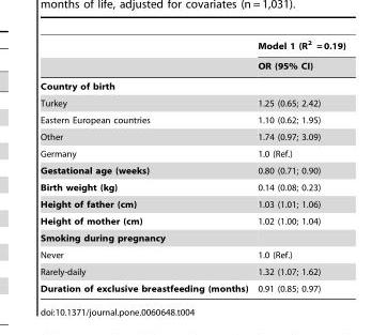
<table><thead><tr><td rowspan="2"></td><td rowspan="2">Model 1 (R<sup>2</sup> = 0.19) OR (95% CI)</td></tr><tr></tr></thead><tbody><tr><td colspan="2">Country of birth</td></tr><tr><td>Turkey</td><td>1.25 (0.65; 2.42)</td></tr><tr><td>Eastern European countries</td><td>1.10 (0.62; 1.95)</td></tr><tr><td>Other</td><td>1.74 (0.97; 3.09)</td></tr><tr><td>Germany</td><td>1.0 (Ref.)</td></tr><tr><td>Gestational age (weeks)</td><td>0.80 (0.71; 0.90)</td></tr><tr><td>Birth weight (kg)</td><td>0.14 (0.08; 0.23)</td></tr><tr><td>Height of father (cm)</td><td>1.03 (1.01; 1.06)</td></tr><tr><td>Height of mother (cm)</td><td>1.02 (1.00; 1.04)</td></tr><tr><td colspan="2">Smoking during pregnancy</td></tr><tr><td>Never</td><td>1.0 (Ref.)</td></tr><tr><td>Rarely-daily</td><td>1.32 (1.07; 1.62)</td></tr><tr><td>Duration of exclusive breastfeeding (months)</td><td>0.91 (0.85; 0.97)</td></tr></tbody></table>